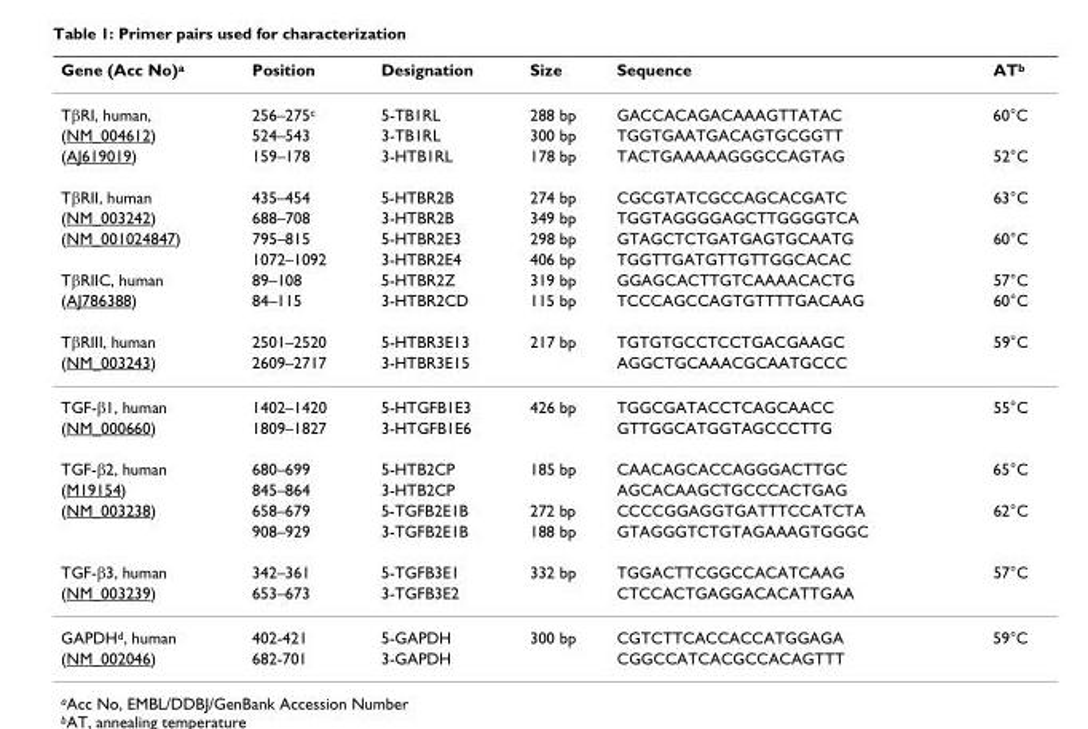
<table><thead><tr><td>Gene (Acc No)<sup>a</sup></td><td>Position</td><td>Designation</td><td>Size</td><td>Sequence</td><td>AT<sup>b</sup></td></tr></thead><tbody><tr><td>TβRI, human,</td><td>256–275<sup>c</sup></td><td>5-TB1RL</td><td>288 bp</td><td>GACCACAGACAAAGTTATAC</td><td>60°C</td></tr><tr><td>(NM_004612)</td><td>524–543</td><td>3-TB1RL</td><td>300 bp</td><td>TGGTGAATGACAGTGCGGTT</td><td></td></tr><tr><td>(AJ619019)</td><td>159–178</td><td>3-HTB1RL</td><td>178 bp</td><td>TACTGAAAAAGGGCCAGTAG</td><td>52°C</td></tr><tr><td>TβRII, human</td><td>435–454</td><td>5-HTBR2B</td><td>274 bp</td><td>CGCGTATCGCCAGCACGATC</td><td>63°C</td></tr><tr><td>(NM_003242)</td><td>688–708</td><td>3-HTBR2B</td><td>349 bp</td><td>TGGTAGGGGAGCTTGGGGTCA</td><td></td></tr><tr><td rowspan="2">(NM_001024847)</td><td>795–815</td><td>5-HTBR2E3</td><td>298 bp</td><td>GTAGCTCTGATGAGTGCAATG</td><td>60°C</td></tr><tr><td>1072–1092</td><td>3-HTBR2E4</td><td>406 bp</td><td>TGGTTGATGTTGTTGGCACAC</td><td></td></tr><tr><td>TβRIIC, human</td><td>89–108</td><td>5-HTBR2Z</td><td>319 bp</td><td>GGAGCACTTGTCAAAACACTG</td><td>57°C</td></tr><tr><td>(AJ786388)</td><td>84–115</td><td>3-HTBR2CD</td><td>115 bp</td><td>TCCCAGCCAGTGTTTTGACAAG</td><td>60°C</td></tr><tr><td>TβRIII, human</td><td>2501–2520</td><td>5-HTBR3E13</td><td>217 bp</td><td>TGTGTGCCTCCTGACGAAGC</td><td>59°C</td></tr><tr><td>(NM_003243)</td><td>2609–2717</td><td>3-HTBR3E15</td><td></td><td>AGGCTGCAAACGCAATGCCC</td><td></td></tr><tr><td>TGF-β1, human</td><td>1402–1420</td><td>5-HTGFB1E3</td><td>426 bp</td><td>TGGCGATACCTCAGCAACC</td><td>55°C</td></tr><tr><td>(NM_000660)</td><td>1809–1827</td><td>3-HTGFB1E6</td><td></td><td>GTTGGCATGGTAGCCCTTG</td><td></td></tr><tr><td>TGF-β2, human</td><td>680–699</td><td>5-HTB2CP</td><td>185 bp</td><td>CAACAGCACCAGGGACTTGC</td><td>65°C</td></tr><tr><td>(M19154)</td><td>845–864</td><td>3-HTB2CP</td><td></td><td>AGCACAAGCTGCCCACTGAG</td><td></td></tr><tr><td rowspan="2">(NM_003238)</td><td>658–679</td><td>5-TGFB2E1B</td><td>272 bp</td><td>CCCCGGAGGTGATTTCCATCTA</td><td>62°C</td></tr><tr><td>908–929</td><td>3-TGFB2E1B</td><td>188 bp</td><td>GTAGGGTCTGTAGAAAGTGGGC</td><td></td></tr><tr><td>TGF-β3, human</td><td>342–361</td><td>5-TGFB3E1</td><td>332 bp</td><td>TGGACTTCGGCCACATCAAG</td><td>57°C</td></tr><tr><td>(NM_003239)</td><td>653–673</td><td>3-TGFB3E2</td><td></td><td>CTCCACTGAGGACACATTGAA</td><td></td></tr><tr><td>GAPDH<sup>d</sup>, human</td><td>402-421</td><td>5-GAPDH</td><td>300 bp</td><td>CGTCTTCACCACCATGGAGA</td><td>59°C</td></tr><tr><td>(NM_002046)</td><td>682-701</td><td>3-GAPDH</td><td></td><td>CGGCCATCACGCCACAGTTT</td><td></td></tr></tbody></table>